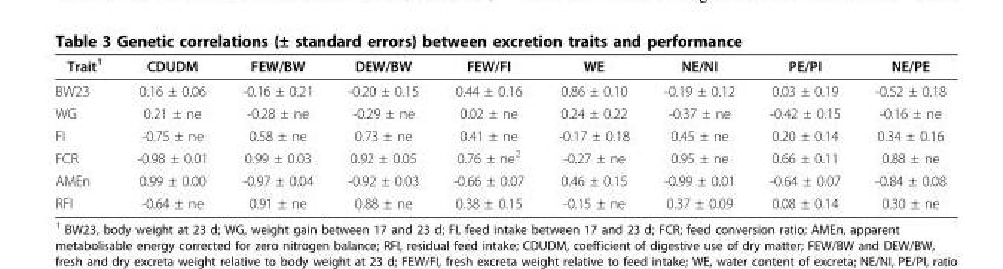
<table><thead><tr><td>Trait<sup>1</sup></td><td>CDUDM</td><td>FEW/BW</td><td>DEW/BW</td><td>FEW/FI</td><td>WE</td><td>NE/NI</td><td>PE/PI</td><td>NE/PE</td></tr></thead><tbody><tr><td>BW23</td><td>0.16 ± 0.06</td><td>-0.16 ± 0.21</td><td>-0.20 ± 0.15</td><td>0.44 ± 0.16</td><td>0.86 ± 0.10</td><td>-0.19 ± 0.12</td><td>0.03 ± 0.19</td><td>-0.52 ± 0.18</td></tr><tr><td>WG</td><td>0.21 ± ne</td><td>-0.28 ± ne</td><td>-0.29 ± ne</td><td>0.02 ± ne</td><td>0.24 ± 0.22</td><td>-0.37 ± ne</td><td>-0.42 ± 0.15</td><td>-0.16 ± ne</td></tr><tr><td>FI</td><td>-0.75 ± ne</td><td>0.58 ± ne</td><td>0.73 ± ne</td><td>0.41 ± ne</td><td>-0.17 ± 0.18</td><td>0.45 ± ne</td><td>0.20 ± 0.14</td><td>0.34 ± 0.16</td></tr><tr><td>FCR</td><td>-0.98 ± 0.01</td><td>0.99 ± 0.03</td><td>0.92 ± 0.05</td><td>0.76 ± ne<sup>2</sup></td><td>-0.27 ± ne</td><td>0.95 ± ne</td><td>0.66 ± 0.11</td><td>0.88 ± ne</td></tr><tr><td>AMEn</td><td>0.99 ± 0.00</td><td>-0.97 ± 0.04</td><td>-0.92 ± 0.03</td><td>-0.66 ± 0.07</td><td>0.46 ± 0.15</td><td>-0.99 ± 0.01</td><td>-0.64 ± 0.07</td><td>-0.84 ± 0.08</td></tr><tr><td>RFI</td><td>-0.64 ± ne</td><td>0.91 ± ne</td><td>0.88 ± ne</td><td>0.38 ± 0.15</td><td>-0.15 ± ne</td><td>0.37 ± 0.09</td><td>0.08 ± 0.14</td><td>0.30 ± ne</td></tr></tbody></table>